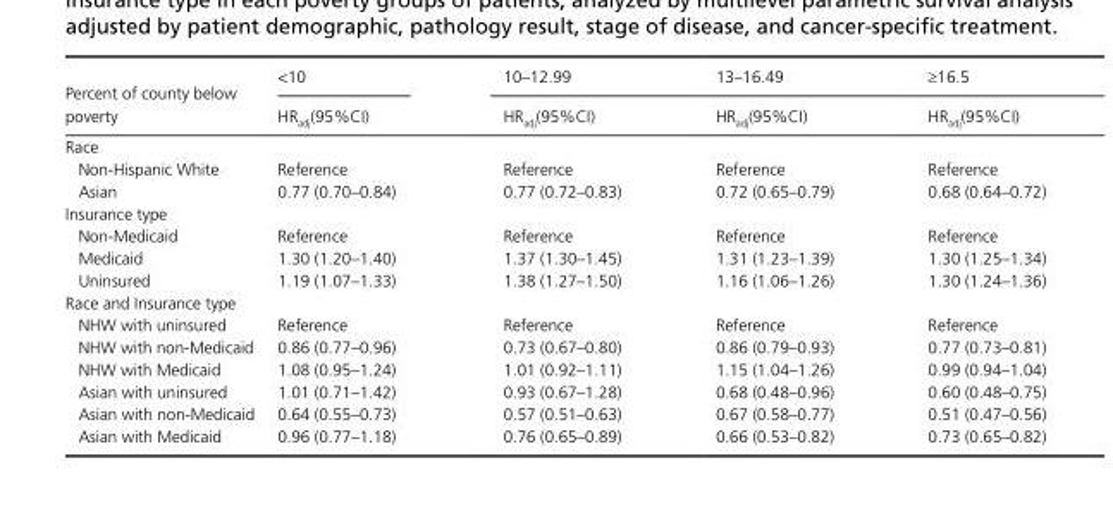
<table><thead><tr><td rowspan="2">Percent of county below poverty</td><td rowspan="2">&lt;10 HR<sub>adj</sub>(95%CI)</td><td rowspan="2">10–12.99 HR<sub>adj</sub>(95%CI)</td><td rowspan="2">13–16.49 HR<sub>adj</sub>(95%CI)</td><td rowspan="2">≥16.5 HR<sub>adj</sub>(95%CI)</td></tr><tr></tr></thead><tbody><tr><td colspan="5">Race</td></tr><tr><td>Non- Hispanic White</td><td>Reference</td><td>Reference</td><td>Reference</td><td>Reference</td></tr><tr><td>Asian</td><td>0.77 (0.70–0.84)</td><td>0.77 (0.72–0.83)</td><td>0.72 (0.65–0.79)</td><td>0.68 (0.64–0.72)</td></tr><tr><td colspan="5">Insurance type</td></tr><tr><td>Non- Medicaid</td><td>Reference</td><td>Reference</td><td>Reference</td><td>Reference</td></tr><tr><td>Medicaid</td><td>1.30 (1.20–1.40)</td><td>1.37 (1.30–1.45)</td><td>1.31 (1.23–1.39)</td><td>1.30 (1.25–1.34)</td></tr><tr><td>Uninsured</td><td>1.19 (1.07–1.33)</td><td>1.38 (1.27–1.50)</td><td>1.16 (1.06–1.26)</td><td>1.30 (1.24–1.36)</td></tr><tr><td colspan="5">Race and Insurance type</td></tr><tr><td>NHW with uninsured</td><td>Reference</td><td>Reference</td><td>Reference</td><td>Reference</td></tr><tr><td>NHW with non- Medicaid</td><td>0.86 (0.77–0.96)</td><td>0.73 (0.67–0.80)</td><td>0.86 (0.79–0.93)</td><td>0.77 (0.73–0.81)</td></tr><tr><td>NHW with Medicaid</td><td>1.08 (0.95–1.24)</td><td>1.01 (0.92–1.11)</td><td>1.15 (1.04–1.26)</td><td>0.99 (0.94–1.04)</td></tr><tr><td>Asian with uninsured</td><td>1.01 (0.71–1.42)</td><td>0.93 (0.67–1.28)</td><td>0.68 (0.48–0.96)</td><td>0.60 (0.48–0.75)</td></tr><tr><td>Asian with non- Medicaid</td><td>0.64 (0.55–0.73)</td><td>0.57 (0.51–0.63)</td><td>0.67 (0.58–0.77)</td><td>0.51 (0.47–0.56)</td></tr><tr><td>Asian with Medicaid</td><td>0.96 (0.77–1.18)</td><td>0.76 (0.65–0.89)</td><td>0.66 (0.53–0.82)</td><td>0.73 (0.65–0.82)</td></tr></tbody></table>